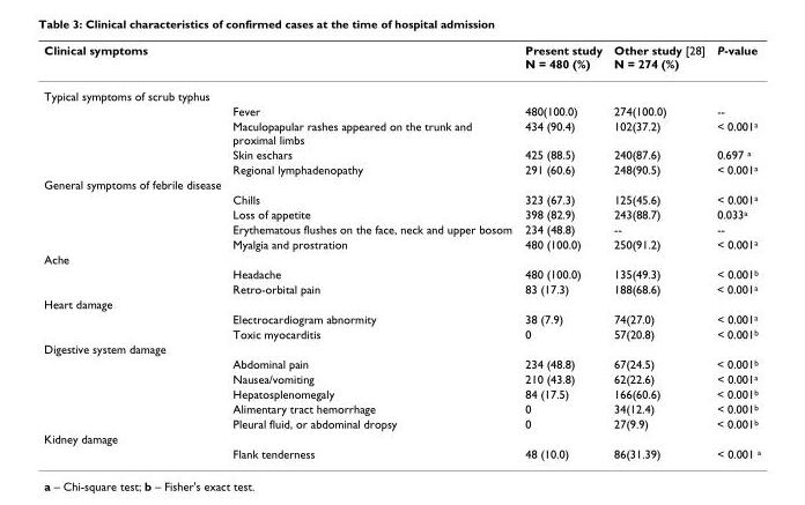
<table><thead><tr><td>Clinical symptoms</td><td></td><td>Present study N = 480 (%)</td><td>Other study [28] N = 274 (%)</td><td>P-value</td></tr></thead><tbody><tr><td colspan="5">Typical symptoms of scrub typhus</td></tr><tr><td></td><td>Fever</td><td>480(100.0)</td><td>274(100.0)</td><td>--</td></tr><tr><td></td><td>Maculopapular rashes appeared on the trunk and proximal limbs</td><td>434 (90.4)</td><td>102(37.2)</td><td>&lt; 0.001<sup>a</sup></td></tr><tr><td></td><td>Skin eschars</td><td>425 (88.5)</td><td>240(87.6)</td><td>0.697 <sup>a</sup></td></tr><tr><td></td><td>Regional lymphadenopathy</td><td>291 (60.6)</td><td>248(90.5)</td><td>&lt; 0.001<sup>a</sup></td></tr><tr><td colspan="5">General symptoms of febrile disease</td></tr><tr><td></td><td>Chills</td><td>323 (67.3)</td><td>125(45.6)</td><td>&lt; 0.001<sup>a</sup></td></tr><tr><td></td><td>Loss of appetite</td><td>398 (82.9)</td><td>243(88.7)</td><td>0.033<sup>a</sup></td></tr><tr><td></td><td>Erythematous flushes on the face, neck and upper bosom</td><td>234 (48.8)</td><td>--</td><td>--</td></tr><tr><td></td><td>Myalgia and prostration</td><td>480 (100.0)</td><td>250(91.2)</td><td>&lt; 0.001<sup>a</sup></td></tr><tr><td colspan="5">Ache</td></tr><tr><td></td><td>Headache</td><td>480 (100.0)</td><td>135(49.3)</td><td>&lt; 0.001<sup>b</sup></td></tr><tr><td></td><td>Retro-orbital pain</td><td>83 (17.3)</td><td>188(68.6)</td><td>&lt; 0.001<sup>a</sup></td></tr><tr><td colspan="5">Heart damage</td></tr><tr><td></td><td>Electrocardiogram abnormity</td><td>38 (7.9)</td><td>74(27.0)</td><td>&lt; 0.001<sup>a</sup></td></tr><tr><td></td><td>Toxic myocarditis</td><td>0</td><td>57(20.8)</td><td>&lt; 0.001<sup>b</sup></td></tr><tr><td colspan="5">Digestive system damage</td></tr><tr><td></td><td>Abdominal pain</td><td>234 (48.8)</td><td>67(24.5)</td><td>&lt; 0.001<sup>b</sup></td></tr><tr><td></td><td>Nausea/vomiting</td><td>210 (43.8)</td><td>62(22.6)</td><td>&lt; 0.001<sup>a</sup></td></tr><tr><td></td><td>Hepatosplenomegaly</td><td>84 (17.5)</td><td>166(60.6)</td><td>&lt; 0.001<sup>b</sup></td></tr><tr><td></td><td>Alimentary tract hemorrhage</td><td>0</td><td>34(12.4)</td><td>&lt; 0.001<sup>b</sup></td></tr><tr><td></td><td>Pleural fluid, or abdominal dropsy</td><td>0</td><td>27(9.9)</td><td>&lt; 0.001<sup>b</sup></td></tr><tr><td colspan="5">Kidney damage</td></tr><tr><td></td><td>Flank tenderness</td><td>48 (10.0)</td><td>86(31.39)</td><td>&lt; 0.001 <sup>a</sup></td></tr></tbody></table>